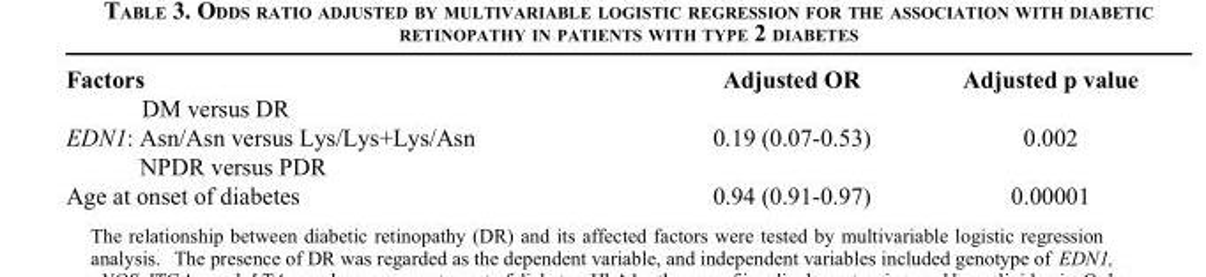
<table><thead><tr><td>Factors</td><td>Adjusted OR</td><td>Adjusted p value</td></tr></thead><tbody><tr><td colspan="3">DM versus DR</td></tr><tr><td>EDN1: Asn/Asn versus Lys/Lys+Lys/Asn</td><td>0.19 (0.07-0.53)</td><td>0.002</td></tr><tr><td colspan="3">NPDR versus PDR</td></tr><tr><td>Age at onset of diabetes</td><td>0.94 (0.91-0.97)</td><td>0.00001</td></tr></tbody></table>